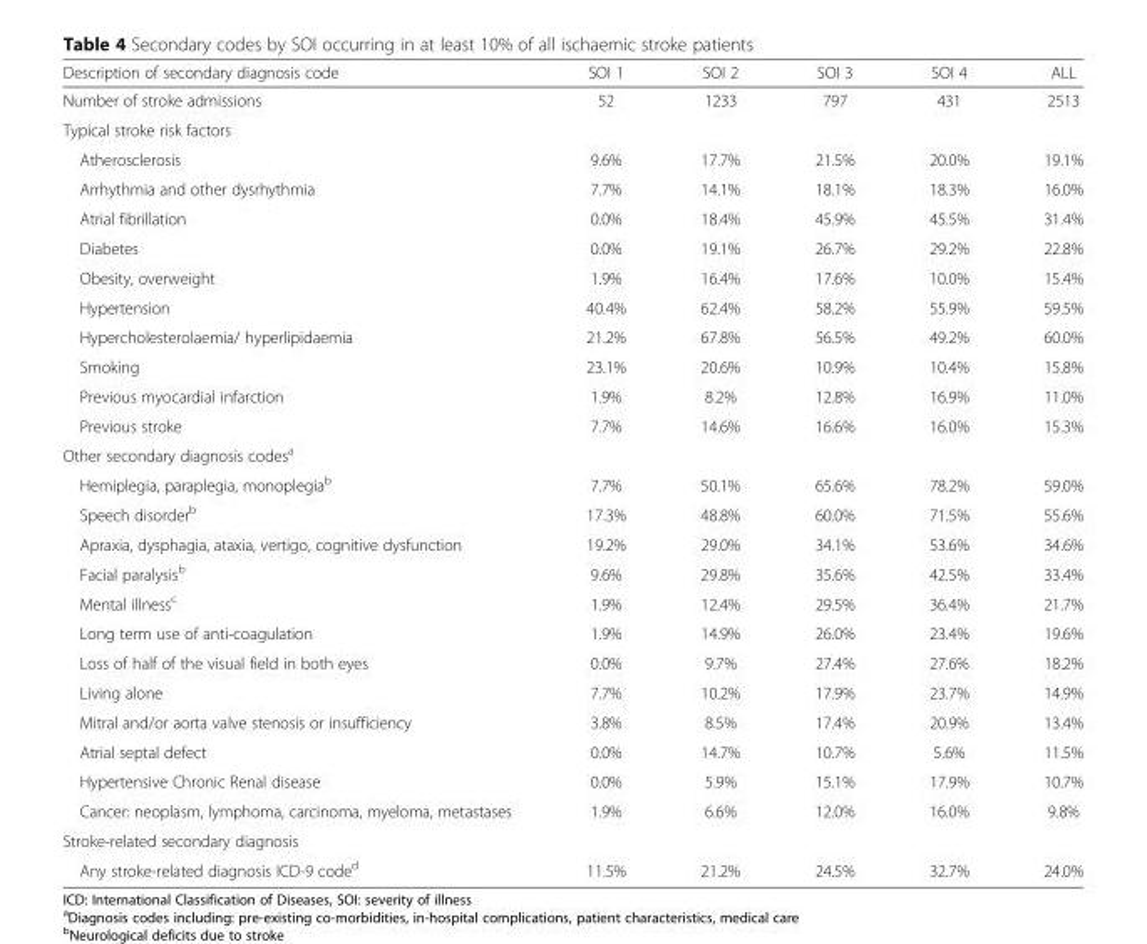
<table><thead><tr><td>Description of secondary diagnosis code</td><td>SOI 1</td><td>SOI 2</td><td>SOI 3</td><td>SOI 4</td><td>ALL</td></tr></thead><tbody><tr><td>Number of stroke admissions</td><td>52</td><td>1233</td><td>797</td><td>431</td><td>2513</td></tr><tr><td colspan="6">Typical stroke risk factors</td></tr><tr><td>Atherosclerosis</td><td>9.6%</td><td>17.7%</td><td>21.5%</td><td>20.0%</td><td>19.1%</td></tr><tr><td>Arrhythmia and other dysrhythmia</td><td>7.7%</td><td>14.1%</td><td>18.1%</td><td>18.3%</td><td>16.0%</td></tr><tr><td>Atrial fibrillation</td><td>0.0%</td><td>18.4%</td><td>45.9%</td><td>45.5%</td><td>31.4%</td></tr><tr><td>Diabetes</td><td>0.0%</td><td>19.1%</td><td>26.7%</td><td>29.2%</td><td>22.8%</td></tr><tr><td>Obesity, overweight</td><td>1.9%</td><td>16.4%</td><td>17.6%</td><td>10.0%</td><td>15.4%</td></tr><tr><td>Hypertension</td><td>40.4%</td><td>62.4%</td><td>58.2%</td><td>55.9%</td><td>59.5%</td></tr><tr><td>Hypercholesterolaemia/ hyperlipidaemia</td><td>21.2%</td><td>67.8%</td><td>56.5%</td><td>49.2%</td><td>60.0%</td></tr><tr><td>Smoking</td><td>23.1%</td><td>20.6%</td><td>10.9%</td><td>10.4%</td><td>15.8%</td></tr><tr><td>Previous myocardial infarction</td><td>1.9%</td><td>8.2%</td><td>12.8%</td><td>16.9%</td><td>11.0%</td></tr><tr><td>Previous stroke</td><td>7.7%</td><td>14.6%</td><td>16.6%</td><td>16.0%</td><td>15.3%</td></tr><tr><td colspan="6">Other secondary diagnosis codes<sup>a</sup></td></tr><tr><td>Hemiplegia, paraplegia, monoplegia<sup>b</sup></td><td>7.7%</td><td>50.1%</td><td>65.6%</td><td>78.2%</td><td>59.0%</td></tr><tr><td>Speech disorder<sup>b</sup></td><td>17.3%</td><td>48.8%</td><td>60.0%</td><td>71.5%</td><td>55.6%</td></tr><tr><td>Apraxia, dysphagia, ataxia, vertigo, cognitive dysfunction</td><td>19.2%</td><td>29.0%</td><td>34.1%</td><td>53.6%</td><td>34.6%</td></tr><tr><td>Facial paralysis<sup>b</sup></td><td>9.6%</td><td>29.8%</td><td>35.6%</td><td>42.5%</td><td>33.4%</td></tr><tr><td>Mental illness<sup>c</sup></td><td>1.9%</td><td>12.4%</td><td>29.5%</td><td>36.4%</td><td>21.7%</td></tr><tr><td>Long term use of anti-coagulation</td><td>1.9%</td><td>14.9%</td><td>26.0%</td><td>23.4%</td><td>19.6%</td></tr><tr><td>Loss of half of the visual field in both eyes</td><td>0.0%</td><td>9.7%</td><td>27.4%</td><td>27.6%</td><td>18.2%</td></tr><tr><td>Living alone</td><td>7.7%</td><td>10.2%</td><td>17.9%</td><td>23.7%</td><td>14.9%</td></tr><tr><td>Mitral and/or aorta valve stenosis or insufficiency</td><td>3.8%</td><td>8.5%</td><td>17.4%</td><td>20.9%</td><td>13.4%</td></tr><tr><td>Atrial septal defect</td><td>0.0%</td><td>14.7%</td><td>10.7%</td><td>5.6%</td><td>11.5%</td></tr><tr><td>Hypertensive Chronic Renal disease</td><td>0.0%</td><td>5.9%</td><td>15.1%</td><td>17.9%</td><td>10.7%</td></tr><tr><td>Cancer: neoplasm, lymphoma, carcinoma, myeloma, metastases</td><td>1.9%</td><td>6.6%</td><td>12.0%</td><td>16.0%</td><td>9.8%</td></tr><tr><td colspan="6">Stroke-related secondary diagnosis</td></tr><tr><td>Any stroke-related diagnosis ICD-9 code<sup>d</sup></td><td>11.5%</td><td>21.2%</td><td>24.5%</td><td>32.7%</td><td>24.0%</td></tr></tbody></table>